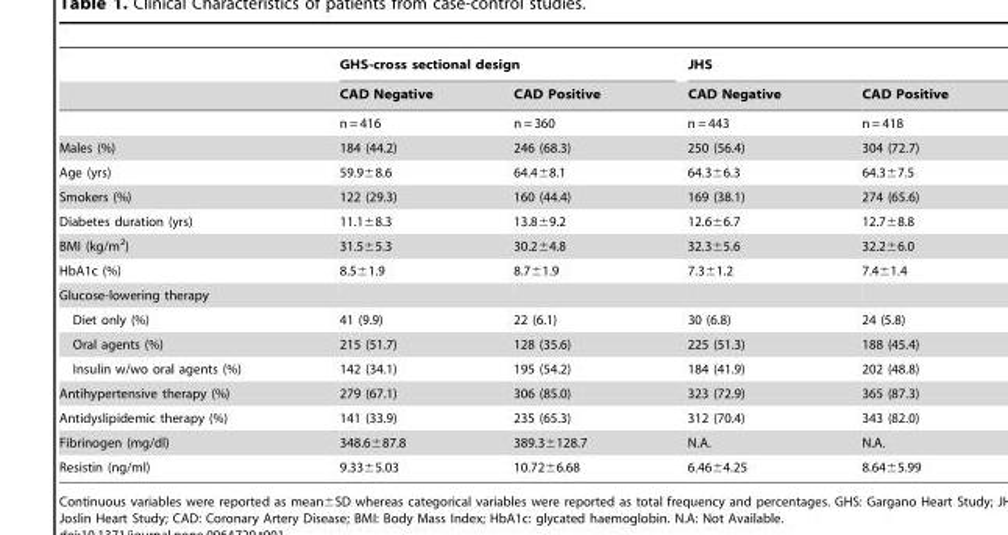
<table><thead><tr><td rowspan="2"></td><td colspan="2">GHS-cross sectional design</td><td colspan="2">JHS</td></tr><tr><td>CAD Negative</td><td>CAD Positive</td><td>CAD Negative</td><td>CAD Positive</td></tr></thead><tbody><tr><td></td><td>n = 416</td><td>n = 360</td><td>n = 443</td><td>n = 418</td></tr><tr><td>Males (%)</td><td>184 (44.2)</td><td>246 (68.3)</td><td>250 (56.4)</td><td>304 (72.7)</td></tr><tr><td>Age (yrs)</td><td>59.9±8.6</td><td>64.4±8.1</td><td>64.3±6.3</td><td>64.3±7.5</td></tr><tr><td>Smokers (%)</td><td>122 (29.3)</td><td>160 (44.4)</td><td>169 (38.1)</td><td>274 (65.6)</td></tr><tr><td>Diabetes duration (yrs)</td><td>11.1±8.3</td><td>13.8±9.2</td><td>12.6±6.7</td><td>12.7±8.8</td></tr><tr><td>BMI (kg/m<sup>2</sup>)</td><td>31.5±5.3</td><td>30.2±4.8</td><td>32.3±5.6</td><td>32.2±6.0</td></tr><tr><td>HbA1c (%)</td><td>8.5±1.9</td><td>8.7±1.9</td><td>7.3±1.2</td><td>7.4±1.4</td></tr><tr><td colspan="5">Glucose-lowering therapy</td></tr><tr><td>Diet only (%)</td><td>41 (9.9)</td><td>22 (6.1)</td><td>30 (6.8)</td><td>24 (5.8)</td></tr><tr><td>Oral agents (%)</td><td>215 (51.7)</td><td>128 (35.6)</td><td>225 (51.3)</td><td>188 (45.4)</td></tr><tr><td>Insulin w/wo oral agents (%)</td><td>142 (34.1)</td><td>195 (54.2)</td><td>184 (41.9)</td><td>202 (48.8)</td></tr><tr><td>Antihypertensive therapy (%)</td><td>279 (67.1)</td><td>306 (85.0)</td><td>323 (72.9)</td><td>365 (87.3)</td></tr><tr><td>Antidyslipidemic therapy (%)</td><td>141 (33.9)</td><td>235 (65.3)</td><td>312 (70.4)</td><td>343 (82.0)</td></tr><tr><td>Fibrinogen (mg/dl)</td><td>348.6±87.8</td><td>389.3±128.7</td><td>N.A.</td><td>N.A.</td></tr><tr><td>Resistin (ng/ml)</td><td>9.33±5.03</td><td>10.72±6.68</td><td>6.46±4.25</td><td>8.64±5.99</td></tr></tbody></table>